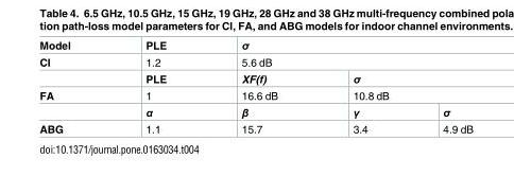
<table><tbody><tr><td>Model</td><td>PLE</td><td colspan="3">σ</td></tr><tr><td rowspan="2">CI</td><td>1.2</td><td colspan="3">5.6 dB</td></tr><tr><td>PLE</td><td>XF(f)</td><td colspan="2">σ</td></tr><tr><td rowspan="2">FA</td><td>1</td><td>16.6 dB</td><td colspan="2">10.8 dB</td></tr><tr><td>α</td><td>β</td><td>γ</td><td>σ</td></tr><tr><td>ABG</td><td>1.1</td><td>15.7</td><td>3.4</td><td>4.9 dB</td></tr></tbody></table>